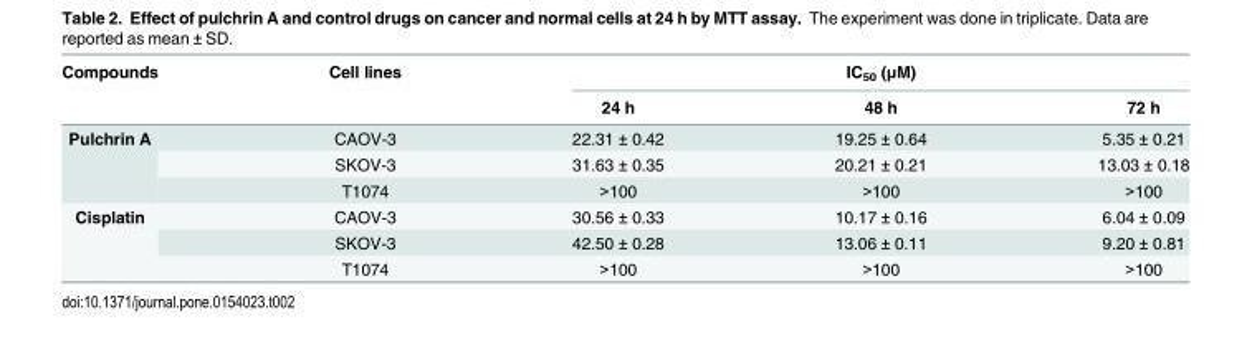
<table><thead><tr><td rowspan="2">Compounds</td><td rowspan="2">Cell lines</td><td colspan="3">IC<sub>50</sub> (μM)</td></tr><tr><td>24 h</td><td>48 h</td><td>72 h</td></tr></thead><tbody><tr><td rowspan="3">Pulchrin A</td><td>CAOV-3</td><td>22.31 ± 0.42</td><td>19.25 ± 0.64</td><td>5.35 ± 0.21</td></tr><tr><td>SKOV-3</td><td>31.63 ± 0.35</td><td>20.21 ± 0.21</td><td>13.03 ± 0.18</td></tr><tr><td>T1074</td><td>&gt;100</td><td>&gt;100</td><td>&gt;100</td></tr><tr><td rowspan="3">Cisplatin</td><td>CAOV-3</td><td>30.56 ± 0.33</td><td>10.17 ± 0.16</td><td>6.04 ± 0.09</td></tr><tr><td>SKOV-3</td><td>42.50 ± 0.28</td><td>13.06 ± 0.11</td><td>9.20 ± 0.81</td></tr><tr><td>T1074</td><td>&gt;100</td><td>&gt;100</td><td>&gt;100</td></tr></tbody></table>